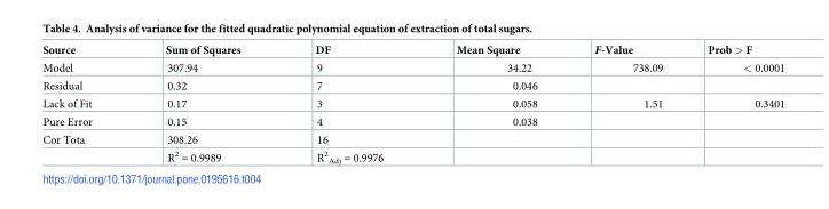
<table><thead><tr><td>Source</td><td>Sum of Squares</td><td>DF</td><td>Mean Square</td><td>F-Value</td><td>Prob &gt; F</td></tr></thead><tbody><tr><td>Model</td><td>307.94</td><td>9</td><td>34.22</td><td>738.09</td><td>&lt; 0.0001</td></tr><tr><td>Residual</td><td>0.32</td><td>7</td><td>0.046</td><td></td><td></td></tr><tr><td>Lack of Fit</td><td>0.17</td><td>3</td><td>0.058</td><td>1.51</td><td>0.3401</td></tr><tr><td>Pure Error</td><td>0.15</td><td>4</td><td>0.038</td><td></td><td></td></tr><tr><td rowspan="2">Cor Tota</td><td>308.26</td><td>16</td><td></td><td></td><td></td></tr><tr><td>R<sup>2</sup> = 0.9989</td><td>R<sup>2</sup> <sub>Adj</sub> = 0.9976</td><td></td><td></td><td></td></tr></tbody></table>